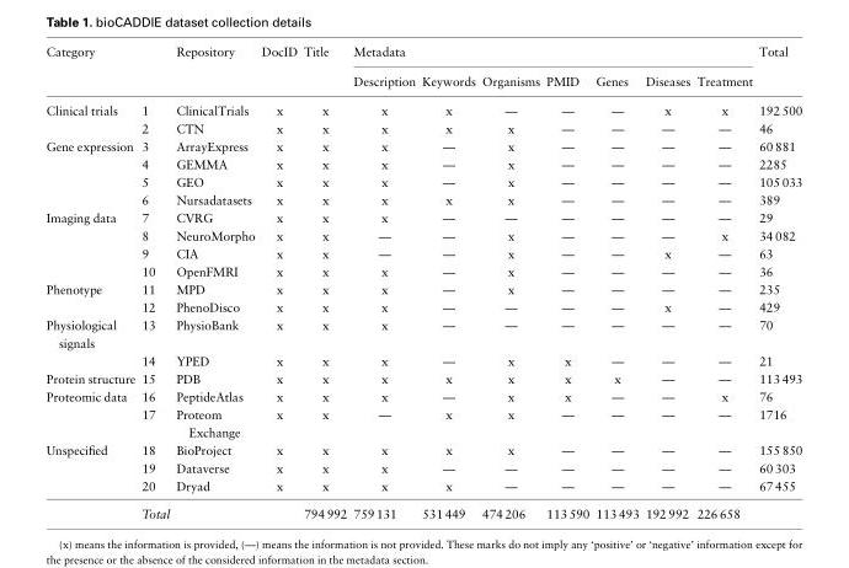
<table><thead><tr><td rowspan="2">Category</td><td rowspan="2"></td><td rowspan="2">Repository</td><td rowspan="2">DocID</td><td rowspan="2">Title</td><td colspan="7">Metadata</td><td rowspan="2">Total</td></tr><tr><td>Description</td><td>Keywords</td><td>Organisms</td><td>PMID</td><td>Genes</td><td>Diseases</td><td>Treatment</td></tr></thead><tbody><tr><td rowspan="2">Clinical trials</td><td>1</td><td>ClinicalTrials</td><td>x</td><td>x</td><td>x</td><td>x</td><td>—</td><td>—</td><td>—</td><td>x</td><td>x</td><td>192 500</td></tr><tr><td>2</td><td>CTN</td><td>x</td><td>x</td><td>x</td><td>x</td><td>x</td><td>—</td><td>—</td><td>—</td><td>—</td><td>46</td></tr><tr><td rowspan="4">Gene expression</td><td>3</td><td>ArrayExpress</td><td>x</td><td>x</td><td>x</td><td>—</td><td>x</td><td>—</td><td>—</td><td>—</td><td>—</td><td>60 881</td></tr><tr><td>4</td><td>GEMMA</td><td>x</td><td>x</td><td>x</td><td>—</td><td>x</td><td>—</td><td>—</td><td>—</td><td>—</td><td>2285</td></tr><tr><td>5</td><td>GEO</td><td>x</td><td>x</td><td>x</td><td>—</td><td>x</td><td>—</td><td>—</td><td>—</td><td>—</td><td>105 033</td></tr><tr><td>6</td><td>Nursadatasets</td><td>x</td><td>x</td><td>x</td><td>x</td><td>x</td><td>—</td><td>—</td><td>—</td><td>—</td><td>389</td></tr><tr><td rowspan="4">Imaging data</td><td>7</td><td>CVRG</td><td>x</td><td>x</td><td>x</td><td>—</td><td>—</td><td>—</td><td>—</td><td>—</td><td>—</td><td>29</td></tr><tr><td>8</td><td>NeuroMorpho</td><td>x</td><td>x</td><td>—</td><td>—</td><td>x</td><td>—</td><td>—</td><td>—</td><td>x</td><td>34 082</td></tr><tr><td>9</td><td>CIA</td><td>x</td><td>x</td><td>—</td><td>—</td><td>x</td><td>—</td><td>—</td><td>x</td><td>—</td><td>63</td></tr><tr><td>10</td><td>OpenFMRI</td><td>x</td><td>x</td><td>x</td><td>—</td><td>x</td><td>—</td><td>—</td><td>—</td><td>—</td><td>36</td></tr><tr><td rowspan="2">Phenotype</td><td>11</td><td>MPD</td><td>x</td><td>x</td><td>x</td><td>—</td><td>x</td><td>—</td><td>—</td><td>—</td><td>—</td><td>235</td></tr><tr><td>12</td><td>PhenoDisco</td><td>x</td><td>x</td><td>x</td><td>—</td><td>—</td><td>—</td><td>—</td><td>x</td><td>—</td><td>429</td></tr><tr><td rowspan="2">Physiological signals</td><td>13</td><td>PhysioBank</td><td>x</td><td>x</td><td>x</td><td>—</td><td>—</td><td>—</td><td>—</td><td>—</td><td>—</td><td>70</td></tr><tr><td>14</td><td>YPED</td><td>x</td><td>x</td><td>x</td><td>—</td><td>x</td><td>x</td><td>—</td><td>—</td><td>—</td><td>21</td></tr><tr><td>Protein structure</td><td>15</td><td>PDB</td><td>x</td><td>x</td><td>x</td><td>x</td><td>x</td><td>x</td><td>x</td><td>—</td><td>—</td><td>113 493</td></tr><tr><td rowspan="2">Proteomic data</td><td>16</td><td>PeptideAtlas</td><td>x</td><td>x</td><td>x</td><td>—</td><td>x</td><td>x</td><td>—</td><td>—</td><td>x</td><td>76</td></tr><tr><td>17</td><td>Proteom Exchange</td><td>x</td><td>x</td><td>—</td><td>x</td><td>x</td><td>—</td><td>—</td><td>—</td><td>—</td><td>1716</td></tr><tr><td rowspan="4">Unspecified</td><td>18</td><td>BioProject</td><td>x</td><td>x</td><td>x</td><td>x</td><td>x</td><td>—</td><td>—</td><td>—</td><td>—</td><td>155 850</td></tr><tr><td>19</td><td>Dataverse</td><td>x</td><td>x</td><td>x</td><td>—</td><td>—</td><td>—</td><td>—</td><td>—</td><td>—</td><td>60 303</td></tr><tr><td>20</td><td>Dryad</td><td>x</td><td>x</td><td>x</td><td>x</td><td>—</td><td>—</td><td>—</td><td>—</td><td>—</td><td>67 455</td></tr><tr><td>Total</td><td></td><td></td><td>794 992</td><td>759 131</td><td>531 449</td><td>474 206</td><td>113 590</td><td>113 493</td><td>192 992</td><td>226 658</td><td></td></tr></tbody></table>